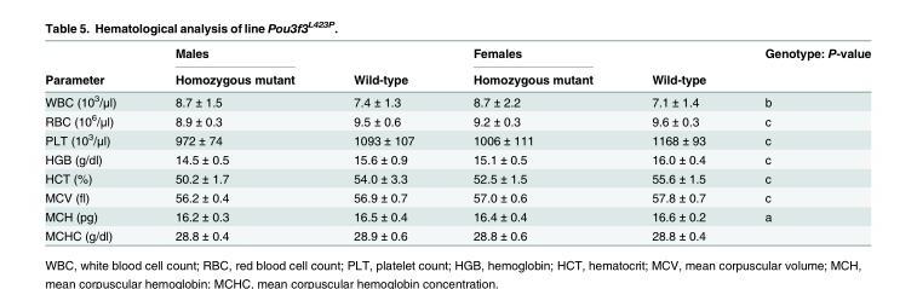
<table><thead><tr><td rowspan="2">Parameter</td><td rowspan="2">Males Homozygous mutant</td><td rowspan="2">Wild-type</td><td rowspan="2">Females Homozygous mutant</td><td rowspan="2">Wild-type</td><td rowspan="2">Genotype: P-value</td></tr><tr></tr></thead><tbody><tr><td>WBC (10<sup>3</sup>/μl)</td><td>8.7 ± 1.5</td><td>7.4 ± 1.3</td><td>8.7 ± 2.2</td><td>7.1 ± 1.4</td><td>b</td></tr><tr><td>RBC (10<sup>6</sup>/μl)</td><td>8.9 ± 0.3</td><td>9.5 ± 0.6</td><td>9.2 ± 0.3</td><td>9.6 ± 0.3</td><td>c</td></tr><tr><td>PLT (10<sup>3</sup>/μl)</td><td>972 ± 74</td><td>1093 ± 107</td><td>1006 ± 111</td><td>1168 ± 93</td><td>c</td></tr><tr><td>HGB (g/dl)</td><td>14.5 ± 0.5</td><td>15.6 ± 0.9</td><td>15.1 ± 0.5</td><td>16.0 ± 0.4</td><td>c</td></tr><tr><td>HCT (%)</td><td>50.2 ± 1.7</td><td>54.0 ± 3.3</td><td>52.5 ± 1.5</td><td>55.6 ± 1.5</td><td>c</td></tr><tr><td>MCV (fl)</td><td>56.2 ± 0.4</td><td>56.9 ± 0.7</td><td>57.0 ± 0.6</td><td>57.8 ± 0.7</td><td>c</td></tr><tr><td>MCH (pg)</td><td>16.2 ± 0.3</td><td>16.5 ± 0.4</td><td>16.4 ± 0.4</td><td>16.6 ± 0.2</td><td>a</td></tr><tr><td>MCHC (g/dl)</td><td>28.8 ± 0.4</td><td>28.9 ± 0.6</td><td>28.8 ± 0.6</td><td>28.8 ± 0.4</td><td></td></tr></tbody></table>